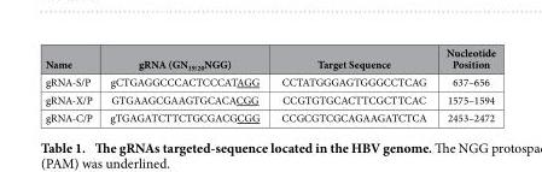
<table><thead><tr><td>Name</td><td>gRNA (GN<sub>19/20</sub>NGG)</td><td>Target Sequence</td><td>Nucleotide Position</td></tr></thead><tbody><tr><td>gRNA-S/P</td><td>gCTGAGGCCCACTCCCATAGG</td><td>CCTATGGGAGTGGGCCTCAG</td><td>637–656</td></tr><tr><td>gRNA-X/P</td><td>GTGAAGCGAAGTGCACACGG</td><td>CCGTGTGCACTTCGCTTCAC</td><td>1575–1594</td></tr><tr><td>gRNA-C/P</td><td>gTGAGATCTTCTGCGACGCGG</td><td>CCGCGTCGCAGAAGATCTCA</td><td>2453–2472</td></tr></tbody></table>